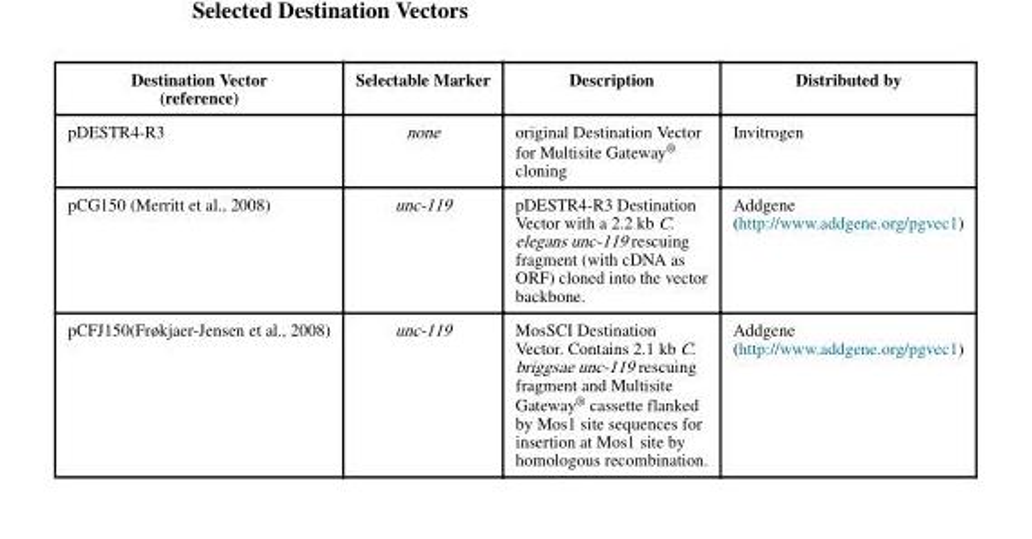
<table><thead><tr><td>Destination Vector (reference)</td><td>Selectable Marker</td><td>Description</td><td>Distributed by</td></tr></thead><tbody><tr><td>pDESTR4-R3</td><td>none</td><td>original Destination Vector for Multisite Gateway<sup>®</sup> cloning</td><td>Invitrogen</td></tr><tr><td>pCG150 (Merritt et al., 2008)</td><td>unc-119</td><td>pDESTR4-R3 Destination Vector with a 2.2 kb C. elegans unc-119 rescuing fragment (with cDNA as ORF) cloned into the vector backbone.</td><td>Addgene (http://www.addgene.org/pgvec1)</td></tr><tr><td>pCFJ150(Frøkjaer-Jensen et al., 2008)</td><td>unc-119</td><td>MosSCI Destination Vector. Contains 2.1 kb C. briggsae unc-119 rescuing fragment and Multisite Gateway<sup>®</sup> cassette flanked by Mos1 site sequences for insertion at Mos1 site by homologous recombination.</td><td>Addgene (http://www.addgene.org/pgvec1)</td></tr></tbody></table>